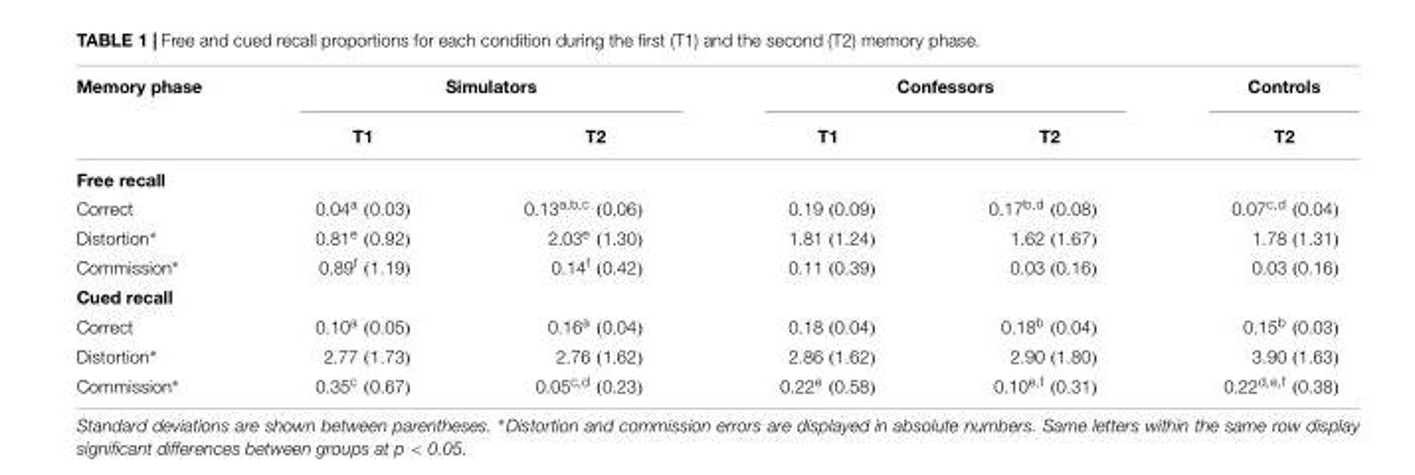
<table><thead><tr><td rowspan="2">Memory phase</td><td colspan="2">Simulators</td><td colspan="2">Confessors</td><td rowspan="2">Controls T2</td></tr><tr><td>T1</td><td>T2</td><td>T1</td><td>T2</td></tr></thead><tbody><tr><td colspan="6">Free recall</td></tr><tr><td>Correct</td><td>0.04<sup>a</sup> (0.03)</td><td>0.13<sup>a,b,c</sup> (0.06)</td><td>0.19 (0.09)</td><td>0.17<sup>b,d</sup> (0.08)</td><td>0.07<sup>c,d</sup> (0.04)</td></tr><tr><td>Distortion∗</td><td>0.81<sup>e</sup> (0.92)</td><td>2.03<sup>e</sup> (1.30)</td><td>1.81 (1.24)</td><td>1.62 (1.67)</td><td>1.78 (1.31)</td></tr><tr><td>Commission∗</td><td>0.89<sup>f</sup> (1.19)</td><td>0.14<sup>f</sup> (0.42)</td><td>0.11 (0.39)</td><td>0.03 (0.16)</td><td>0.03 (0.16)</td></tr><tr><td colspan="6">Cued recall</td></tr><tr><td>Correct</td><td>0.10<sup>a</sup> (0.05)</td><td>0.16<sup>a</sup> (0.04)</td><td>0.18 (0.04)</td><td>0.18<sup>b</sup> (0.04)</td><td>0.15<sup>b</sup> (0.03)</td></tr><tr><td>Distortion∗</td><td>2.77 (1.73)</td><td>2.76 (1.62)</td><td>2.86 (1.62)</td><td>2.90 (1.80)</td><td>3.90 (1.63)</td></tr><tr><td>Commission∗</td><td>0.35<sup>c</sup> (0.67)</td><td>0.05<sup>c,d</sup> (0.23)</td><td>0.22<sup>e</sup> (0.58)</td><td>0.10<sup>e,f</sup> (0.31)</td><td>0.22<sup>d,e,f</sup> (0.38)</td></tr></tbody></table>